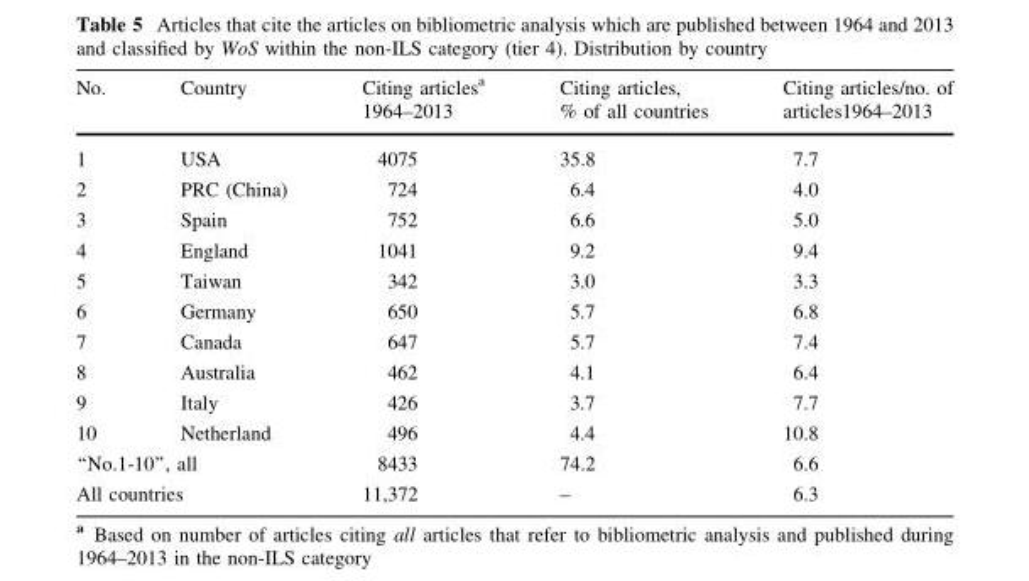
<table><thead><tr><td>No.</td><td>Country</td><td>Citing articles<sup>a</sup> 1964–2013</td><td>Citing articles, % of all countries</td><td>Citing articles/no. of articles1964–2013</td></tr></thead><tbody><tr><td>1</td><td>USA</td><td>4075</td><td>35.8</td><td>7.7</td></tr><tr><td>2</td><td>PRC (China)</td><td>724</td><td>6.4</td><td>4.0</td></tr><tr><td>3</td><td>Spain</td><td>752</td><td>6.6</td><td>5.0</td></tr><tr><td>4</td><td>England</td><td>1041</td><td>9.2</td><td>9.4</td></tr><tr><td>5</td><td>Taiwan</td><td>342</td><td>3.0</td><td>3.3</td></tr><tr><td>6</td><td>Germany</td><td>650</td><td>5.7</td><td>6.8</td></tr><tr><td>7</td><td>Canada</td><td>647</td><td>5.7</td><td>7.4</td></tr><tr><td>8</td><td>Australia</td><td>462</td><td>4.1</td><td>6.4</td></tr><tr><td>9</td><td>Italy</td><td>426</td><td>3.7</td><td>7.7</td></tr><tr><td>10</td><td>Netherland</td><td>496</td><td>4.4</td><td>10.8</td></tr><tr><td colspan="2">‘‘No.1-10’’, all</td><td>8433</td><td>74.2</td><td>6.6</td></tr><tr><td colspan="2">All countries</td><td>11,372</td><td>–</td><td>6.3</td></tr></tbody></table>